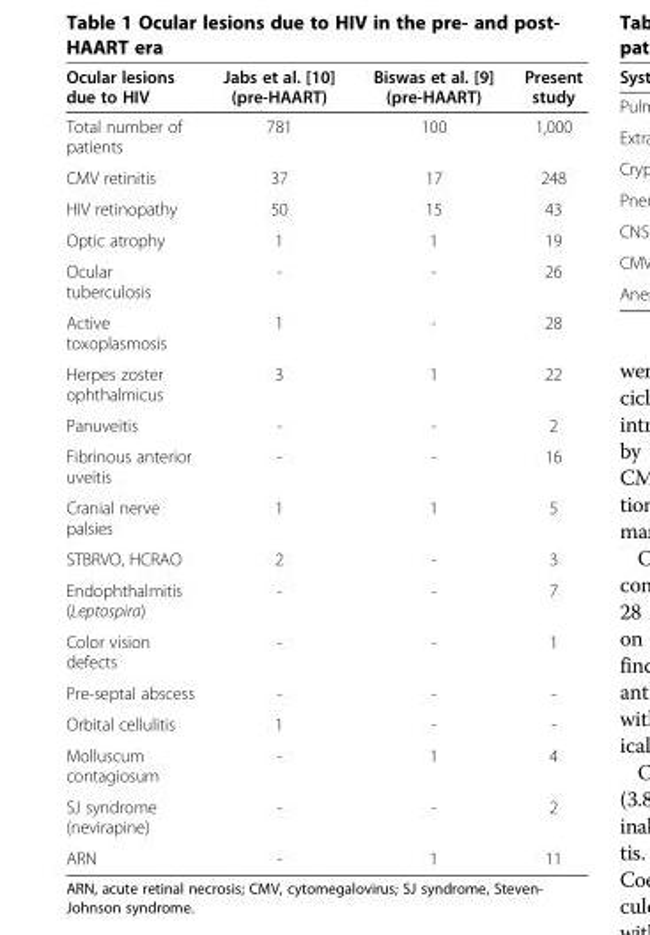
<table><thead><tr><td>Ocular lesions due to HIV</td><td>Jabs et al. [10] (pre-HAART)</td><td>Biswas et al. [9] (pre-HAART)</td><td>Present study</td></tr></thead><tbody><tr><td>Total number of patients</td><td>781</td><td>100</td><td>1,000</td></tr><tr><td>CMV retinitis</td><td>37</td><td>17</td><td>248</td></tr><tr><td>HIV retinopathy</td><td>50</td><td>15</td><td>43</td></tr><tr><td>Optic atrophy</td><td>1</td><td>1</td><td>19</td></tr><tr><td>Ocular tuberculosis</td><td>-</td><td>-</td><td>26</td></tr><tr><td>Active toxoplasmosis</td><td>1</td><td>-</td><td>28</td></tr><tr><td>Herpes zoster ophthalmicus</td><td>3</td><td>1</td><td>22</td></tr><tr><td>Panuveitis</td><td>-</td><td>-</td><td>2</td></tr><tr><td>Fibrinous anterior uveitis</td><td>-</td><td>-</td><td>16</td></tr><tr><td>Cranial nerve palsies</td><td>1</td><td>1</td><td>5</td></tr><tr><td>STBRVO, HCRAO</td><td>2</td><td>-</td><td>3</td></tr><tr><td>Endophthalmitis (Leptospira)</td><td>-</td><td>-</td><td>7</td></tr><tr><td>Color vision defects</td><td>-</td><td>-</td><td>1</td></tr><tr><td>Pre-septal abscess</td><td>-</td><td>-</td><td>-</td></tr><tr><td>Orbital cellulitis</td><td>1</td><td>-</td><td>-</td></tr><tr><td>Molluscum contagiosum</td><td>-</td><td>1</td><td>4</td></tr><tr><td>SJ syndrome (nevirapine)</td><td>-</td><td>-</td><td>2</td></tr><tr><td>ARN</td><td>-</td><td>1</td><td>11</td></tr></tbody></table>